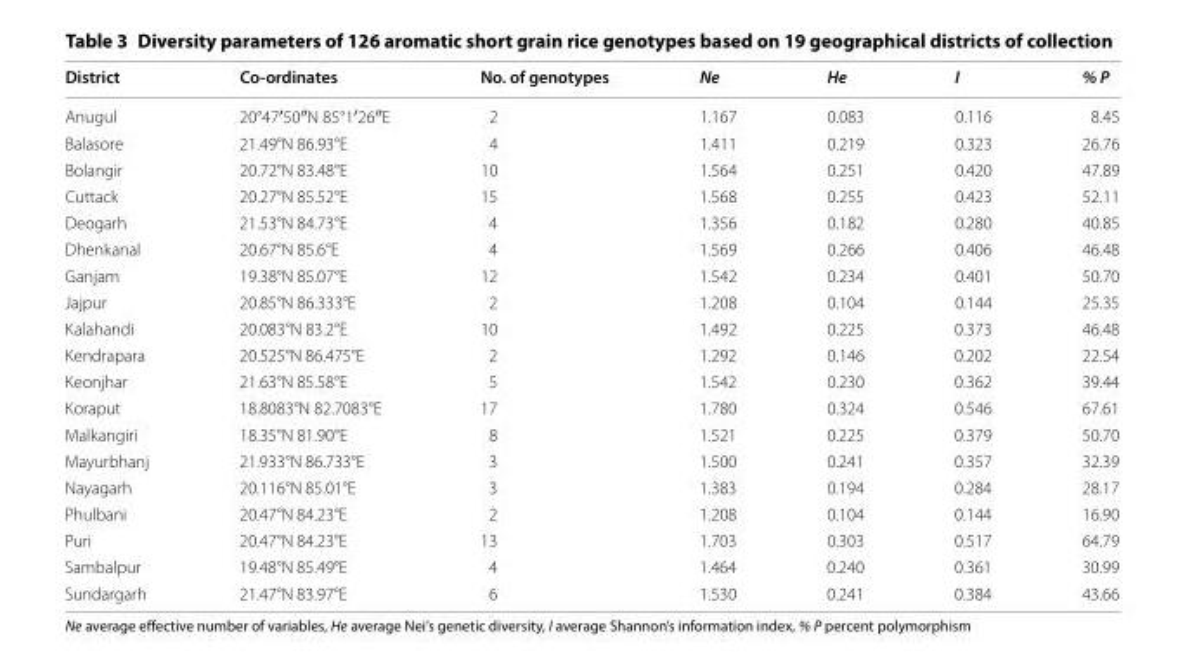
<table><thead><tr><td>District</td><td>Co-ordinates</td><td>No. of genotypes</td><td>Ne</td><td>He</td><td>I</td><td>% P</td></tr></thead><tbody><tr><td>Anugul</td><td>20°47′50″N 85°1′26″E</td><td>2</td><td>1.167</td><td>0.083</td><td>0.116</td><td>8.45</td></tr><tr><td>Balasore</td><td>21.49°N 86.93°E</td><td>4</td><td>1.411</td><td>0.219</td><td>0.323</td><td>26.76</td></tr><tr><td>Bolangir</td><td>20.72°N 83.48°E</td><td>10</td><td>1.564</td><td>0.251</td><td>0.420</td><td>47.89</td></tr><tr><td>Cuttack</td><td>20.27°N 85.52°E</td><td>15</td><td>1.568</td><td>0.255</td><td>0.423</td><td>52.11</td></tr><tr><td>Deogarh</td><td>21.53°N 84.73°E</td><td>4</td><td>1.356</td><td>0.182</td><td>0.280</td><td>40.85</td></tr><tr><td>Dhenkanal</td><td>20.67°N 85.6°E</td><td>4</td><td>1.569</td><td>0.266</td><td>0.406</td><td>46.48</td></tr><tr><td>Ganjam</td><td>19.38°N 85.07°E</td><td>12</td><td>1.542</td><td>0.234</td><td>0.401</td><td>50.70</td></tr><tr><td>Jajpur</td><td>20.85°N 86.333°E</td><td>2</td><td>1.208</td><td>0.104</td><td>0.144</td><td>25.35</td></tr><tr><td>Kalahandi</td><td>20.083°N 83.2°E</td><td>10</td><td>1.492</td><td>0.225</td><td>0.373</td><td>46.48</td></tr><tr><td>Kendrapara</td><td>20.525°N 86.475°E</td><td>2</td><td>1.292</td><td>0.146</td><td>0.202</td><td>22.54</td></tr><tr><td>Keonjhar</td><td>21.63°N 85.58°E</td><td>5</td><td>1.542</td><td>0.230</td><td>0.362</td><td>39.44</td></tr><tr><td>Koraput</td><td>18.8083°N 82.7083°E</td><td>17</td><td>1.780</td><td>0.324</td><td>0.546</td><td>67.61</td></tr><tr><td>Malkangiri</td><td>18.35°N 81.90°E</td><td>8</td><td>1.521</td><td>0.225</td><td>0.379</td><td>50.70</td></tr><tr><td>Mayurbhanj</td><td>21.933°N 86.733°E</td><td>3</td><td>1.500</td><td>0.241</td><td>0.357</td><td>32.39</td></tr><tr><td>Nayagarh</td><td>20.116°N 85.01°E</td><td>3</td><td>1.383</td><td>0.194</td><td>0.284</td><td>28.17</td></tr><tr><td>Phulbani</td><td>20.47°N 84.23°E</td><td>2</td><td>1.208</td><td>0.104</td><td>0.144</td><td>16.90</td></tr><tr><td>Puri</td><td>20.47°N 84.23°E</td><td>13</td><td>1.703</td><td>0.303</td><td>0.517</td><td>64.79</td></tr><tr><td>Sambalpur</td><td>19.48°N 85.49°E</td><td>4</td><td>1.464</td><td>0.240</td><td>0.361</td><td>30.99</td></tr><tr><td>Sundargarh</td><td>21.47°N 83.97°E</td><td>6</td><td>1.530</td><td>0.241</td><td>0.384</td><td>43.66</td></tr></tbody></table>